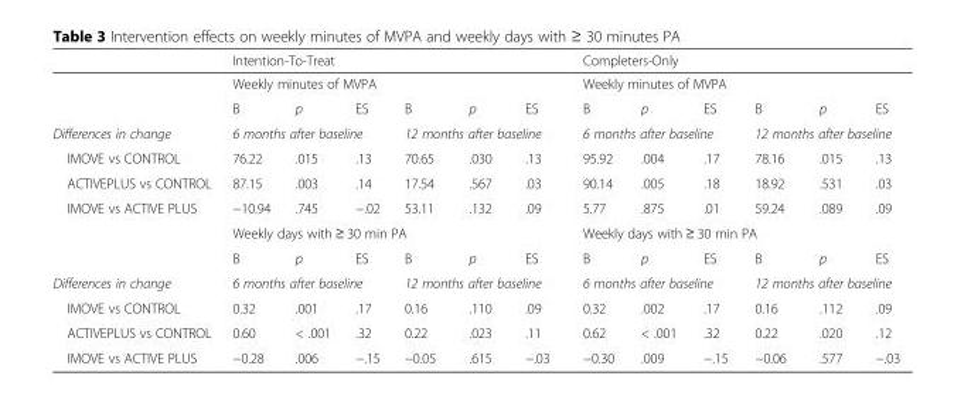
<table><thead><tr><td rowspan="3"></td><td rowspan="2" colspan="6">Intention-To-Treat Weekly minutes of MVPA</td><td rowspan="2" colspan="6">Completers-Only Weekly minutes of MVPA</td></tr><tr></tr><tr><td>B</td><td>p</td><td>ES</td><td>B</td><td>p</td><td>ES</td><td>B</td><td>p</td><td>ES</td><td>B</td><td>p</td><td>ES</td></tr></thead><tbody><tr><td>Differences in change</td><td colspan="3">6 months after baseline</td><td colspan="3">12 months after baseline</td><td colspan="3">6 months after baseline</td><td colspan="3">12 months after baseline</td></tr><tr><td>IMOVE vs CONTROL</td><td>76.22</td><td>.015</td><td>.13</td><td>70.65</td><td>.030</td><td>.13</td><td>95.92</td><td>.004</td><td>.17</td><td>78.16</td><td>.015</td><td>.13</td></tr><tr><td>ACTIVEPLUS vs CONTROL</td><td>87.15</td><td>.003</td><td>.14</td><td>17.54</td><td>.567</td><td>.03</td><td>90.14</td><td>.005</td><td>.18</td><td>18.92</td><td>.531</td><td>.03</td></tr><tr><td rowspan="3">IMOVE vs ACTIVE PLUS</td><td>−10.94</td><td>.745</td><td>−.02</td><td>53.11</td><td>.132</td><td>.09</td><td>5.77</td><td>.875</td><td>.01</td><td>59.24</td><td>.089</td><td>.09</td></tr><tr><td colspan="6">Weekly days with ≥ 30 min PA</td><td colspan="6">Weekly days with ≥ 30 min PA</td></tr><tr><td>B</td><td>p</td><td>ES</td><td>B</td><td>p</td><td>ES</td><td>B</td><td>p</td><td>ES</td><td>B</td><td>p</td><td>ES</td></tr><tr><td>Differences in change</td><td colspan="3">6 months after baseline</td><td colspan="3">12 months after baseline</td><td colspan="3">6 months after baseline</td><td colspan="3">12 months after baseline</td></tr><tr><td>IMOVE vs CONTROL</td><td>0.32</td><td>.001</td><td>.17</td><td>0.16</td><td>.110</td><td>.09</td><td>0.32</td><td>.002</td><td>.17</td><td>0.16</td><td>.112</td><td>.09</td></tr><tr><td>ACTIVEPLUS vs CONTROL</td><td>0.60</td><td>&lt; .001</td><td>.32</td><td>0.22</td><td>.023</td><td>.11</td><td>0.62</td><td>&lt; .001</td><td>.32</td><td>0.22</td><td>.020</td><td>.12</td></tr><tr><td>IMOVE vs ACTIVE PLUS</td><td>−0.28</td><td>.006</td><td>−.15</td><td>−0.05</td><td>.615</td><td>−.03</td><td>−0.30</td><td>.009</td><td>−.15</td><td>−0.06</td><td>.577</td><td>−.03</td></tr></tbody></table>